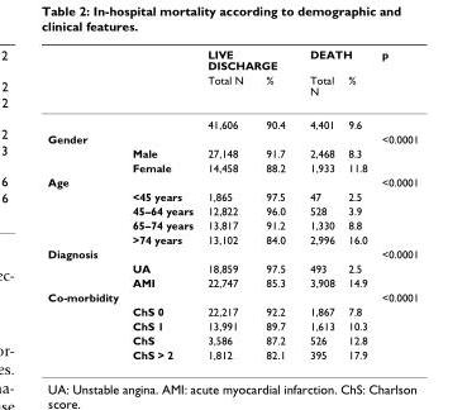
<table><thead><tr><td rowspan="2"></td><td rowspan="2"></td><td colspan="2">LIVE DISCHARGE</td><td colspan="2">DEATH</td><td rowspan="2">p</td></tr><tr><td>Total N</td><td>%</td><td>Total N</td><td>%</td></tr></thead><tbody><tr><td></td><td></td><td>41,606</td><td>90.4</td><td>4,401</td><td>9.6</td><td></td></tr><tr><td rowspan="3">Gender</td><td></td><td></td><td></td><td></td><td></td><td>&lt;0.0001</td></tr><tr><td>Male</td><td>27,148</td><td>91.7</td><td>2,468</td><td>8.3</td><td></td></tr><tr><td>Female</td><td>14,458</td><td>88.2</td><td>1,933</td><td>11.8</td><td></td></tr><tr><td rowspan="5">Age</td><td></td><td></td><td></td><td></td><td></td><td>&lt;0.0001</td></tr><tr><td>&lt;45 years</td><td>1,865</td><td>97.5</td><td>47</td><td>2.5</td><td></td></tr><tr><td>45–64 years</td><td>12,822</td><td>96.0</td><td>528</td><td>3.9</td><td></td></tr><tr><td>65–74 years</td><td>13,817</td><td>91.2</td><td>1,330</td><td>8.8</td><td></td></tr><tr><td>&gt;74 years</td><td>13,102</td><td>84.0</td><td>2,996</td><td>16.0</td><td></td></tr><tr><td rowspan="3">Diagnosis</td><td></td><td></td><td></td><td></td><td></td><td>&lt;0.0001</td></tr><tr><td>UA</td><td>18,859</td><td>97.5</td><td>493</td><td>2.5</td><td></td></tr><tr><td>AMI</td><td>22,747</td><td>85.3</td><td>3,908</td><td>14.9</td><td></td></tr><tr><td rowspan="5">Co-morbidity</td><td></td><td></td><td></td><td></td><td></td><td>&lt;0.0001</td></tr><tr><td>ChS 0</td><td>22,217</td><td>92.2</td><td>1,867</td><td>7.8</td><td></td></tr><tr><td>ChS 1</td><td>13,991</td><td>89.7</td><td>1,613</td><td>10.3</td><td></td></tr><tr><td>ChS</td><td>3,586</td><td>87.2</td><td>526</td><td>12.8</td><td></td></tr><tr><td>ChS &gt; 2</td><td>1,812</td><td>82.1</td><td>395</td><td>17.9</td><td></td></tr></tbody></table>